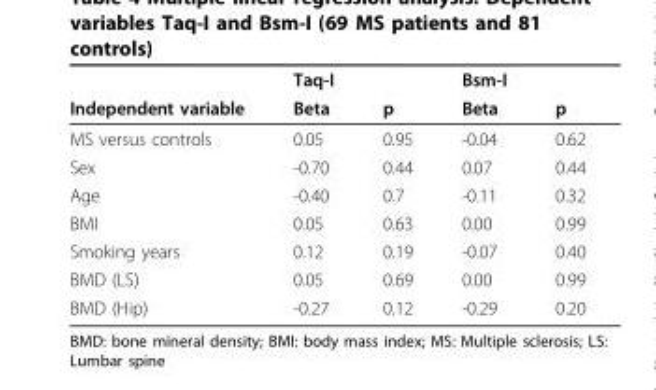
<table><thead><tr><td rowspan="2">Independent variable</td><td rowspan="2">Taq-I Beta</td><td rowspan="2">p</td><td rowspan="2">Bsm-I Beta</td><td rowspan="2">p</td></tr><tr></tr></thead><tbody><tr><td>MS versus controls</td><td>0.05</td><td>0.95</td><td>-0.04</td><td>0.62</td></tr><tr><td>Sex</td><td>-0.70</td><td>0.44</td><td>0.07</td><td>0.44</td></tr><tr><td>Age</td><td>-0.40</td><td>0.7</td><td>-0.11</td><td>0.32</td></tr><tr><td>BMI</td><td>0.05</td><td>0.63</td><td>0.00</td><td>0.99</td></tr><tr><td>Smoking years</td><td>0.12</td><td>0.19</td><td>-0.07</td><td>0.40</td></tr><tr><td>BMD (LS)</td><td>0.05</td><td>0.69</td><td>0.00</td><td>0.99</td></tr><tr><td>BMD (Hip)</td><td>-0.27</td><td>0.12</td><td>-0.29</td><td>0.20</td></tr></tbody></table>